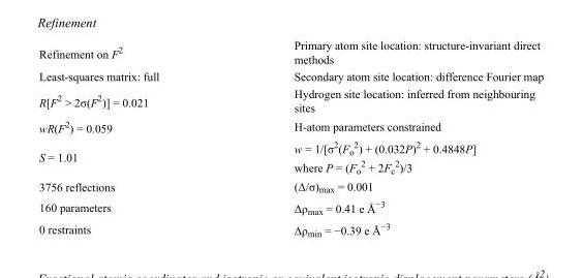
<table><tbody><tr><td>Refinement on F<sup>2</sup></td><td>Primary atom site location: structure-invariant direct methods</td></tr><tr><td>Least-squares matrix: full</td><td>Secondary atom site location: difference Fourier map</td></tr><tr><td>R[F<sup>2</sup> &gt; 2σ(F<sup>2</sup>)] = 0.021</td><td>Hydrogen site location: inferred from neighbouring sites</td></tr><tr><td>wR(F<sup>2</sup>) = 0.059</td><td>H-atom parameters constrained</td></tr><tr><td>S = 1.01</td><td>w = 1/[σ<sup>2</sup>(F<sub>o</sub> <sup>2</sup>) + (0.032P)<sup>2</sup> + 0.4848P] where P = (F<sub>o</sub> <sup>2</sup> + 2F<sub>c</sub> <sup>2</sup>)/3</td></tr><tr><td>3756 reflections</td><td>(Δ/σ)<sub>max</sub> = 0.001</td></tr><tr><td>160 parameters</td><td>Δρ<sub>max</sub> = 0.41 e Å<sup>−3</sup></td></tr><tr><td>0 restraints</td><td>Δρ<sub>min</sub> = −0.39 e Å<sup>−3</sup></td></tr></tbody></table>